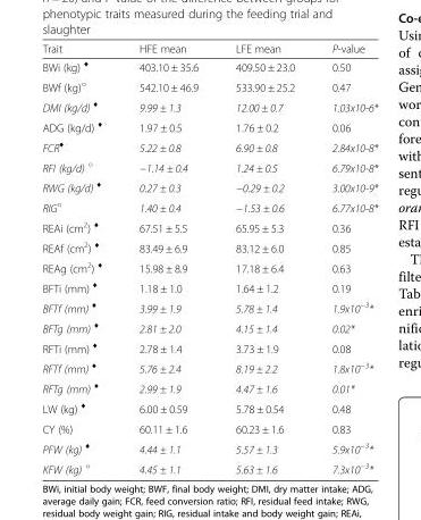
<table><thead><tr><td>Trait</td><td>HFE mean</td><td>LFE mean</td><td>P-value</td></tr></thead><tbody><tr><td>BWi (kg) <sup>♦</sup></td><td>403.10 ± 35.6</td><td>409.50 ± 23.0</td><td>0.50</td></tr><tr><td>BWf (kg)<sup>○</sup></td><td>542.10 ± 46.9</td><td>533.90 ± 25.2</td><td>0.47</td></tr><tr><td>DMI (kg/d) <sup>♦</sup></td><td>9.99 ± 1.3</td><td>12.00 ± 0.7</td><td>1.03x10-6*</td></tr><tr><td>ADG (kg/d) <sup>♦</sup></td><td>1.97 ± 0.5</td><td>1.76 ± 0.2</td><td>0.06</td></tr><tr><td>FCR<sup>♦</sup></td><td>5.22 ± 0.8</td><td>6.90 ± 0.8</td><td>2.84x10-8*</td></tr><tr><td>RFI (kg/d) <sup>○</sup></td><td>−1.14 ± 0.4</td><td>1.24 ± 0.5</td><td>6.79x10-8*</td></tr><tr><td>RWG (kg/d) <sup>♦</sup></td><td>0.27 ± 0.3</td><td>−0.29 ± 0.2</td><td>3.00x10-9*</td></tr><tr><td>RIG<sup>○</sup></td><td>1.40 ± 0.4</td><td>−1.53 ± 0.6</td><td>6.77x10-8*</td></tr><tr><td>REAi (cm<sup>2</sup>) <sup>♦</sup></td><td>67.51 ± 5.5</td><td>65.95 ± 5.3</td><td>0.36</td></tr><tr><td>REAf (cm<sup>2</sup>) <sup>♦</sup></td><td>83.49 ± 6.9</td><td>83.12 ± 6.0</td><td>0.85</td></tr><tr><td>REAg (cm<sup>2</sup>) <sup>♦</sup></td><td>15.98 ± 8.9</td><td>17.18 ± 6.4</td><td>0.63</td></tr><tr><td>BFTi (mm) <sup>♦</sup></td><td>1.18 ± 1.0</td><td>1.64 ± 1.2</td><td>0.19</td></tr><tr><td>BFTf (mm) <sup>♦</sup></td><td>3.99 ± 1.9</td><td>5.78 ± 1.4</td><td>1.9x10<sup>−3</sup>*</td></tr><tr><td>BFTg (mm) <sup>♦</sup></td><td>2.81 ± 2.0</td><td>4.15 ± 1.4</td><td>0.02*</td></tr><tr><td>RFTi (mm) <sup>♦</sup></td><td>2.78 ± 1.4</td><td>3.73 ± 1.9</td><td>0.08</td></tr><tr><td>RFTf (mm) <sup>♦</sup></td><td>5.76 ± 2.4</td><td>8.19 ± 2.2</td><td>1.8x10<sup>−3</sup>*</td></tr><tr><td>RFTg (mm) <sup>♦</sup></td><td>2.99 ± 1.9</td><td>4.47 ± 1.6</td><td>0.01*</td></tr><tr><td>LW (kg) <sup>♦</sup></td><td>6.00 ± 0.59</td><td>5.78 ± 0.54</td><td>0.48</td></tr><tr><td>CY (%)</td><td>60.11 ± 1.6</td><td>60.23 ± 1.6</td><td>0.83</td></tr><tr><td>PFW (kg) <sup>♦</sup></td><td>4.44 ± 1.1</td><td>5.57 ± 1.3</td><td>5.9x10<sup>−3</sup>*</td></tr><tr><td>KFW (kg) <sup>○</sup></td><td>4.45 ± 1.1</td><td>5.63 ± 1.6</td><td>7.3x10<sup>−3</sup>*</td></tr></tbody></table>